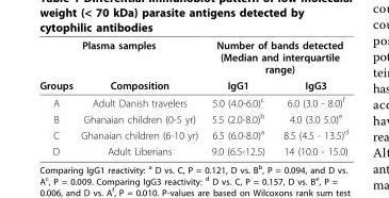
<table><thead><tr><td colspan="2">Plasma samples</td><td colspan="2">Number of bands detected (Median and interquartile range)</td></tr><tr><td>Groups</td><td>Composition</td><td>IgG1</td><td>IgG3</td></tr></thead><tbody><tr><td>A</td><td>Adult Danish travelers</td><td>5.0 (4.0-6.0)<sup>c</sup></td><td>6.0 (3.0 - 8.0)<sup>f</sup></td></tr><tr><td>B</td><td>Ghanaian children (0-5 yr)</td><td>5.5 (2.0-8.0)<sup>b</sup></td><td>4.0 (3.0 5.0)<sup>e</sup></td></tr><tr><td>C</td><td>Ghanaian children (6-10 yr)</td><td>6.5 (6.0-8.0)<sup>a</sup></td><td>8.5 (4.5 - 13.5)<sup>d</sup></td></tr><tr><td>D</td><td>Adult Liberians</td><td>9.0 (6.5-12.5)</td><td>14 (10.0 - 15.0)</td></tr></tbody></table>